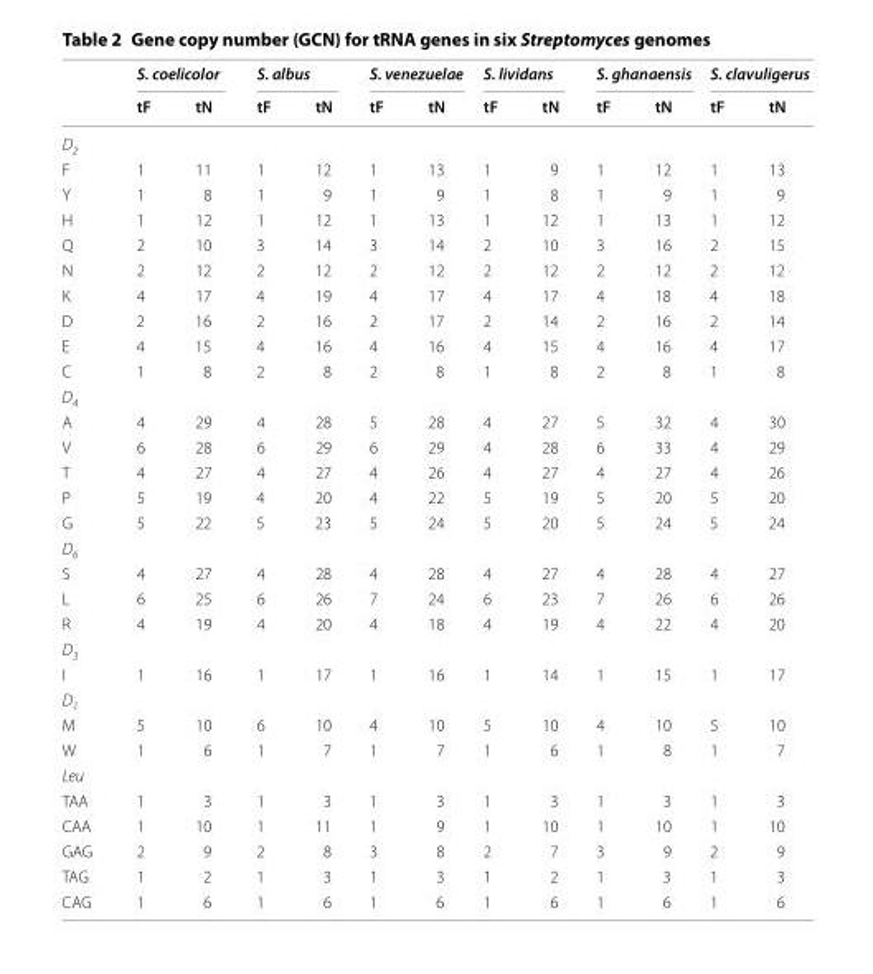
<table><thead><tr><td rowspan="2"></td><td colspan="2">S. coelicolor</td><td colspan="2">S. albus</td><td colspan="2">S. venezuelae</td><td colspan="2">S. lividans</td><td colspan="2">S. ghanaensis</td><td colspan="2">S. clavuligerus</td></tr><tr><td>tF</td><td>tN</td><td>tF</td><td>tN</td><td>tF</td><td>tN</td><td>tF</td><td>tN</td><td>tF</td><td>tN</td><td>tF</td><td>tN</td></tr></thead><tbody><tr><td colspan="13">D<sub>2</sub></td></tr><tr><td>F</td><td>1</td><td>11</td><td>1</td><td>12</td><td>1</td><td>13</td><td>1</td><td>9</td><td>1</td><td>12</td><td>1</td><td>13</td></tr><tr><td>Y</td><td>1</td><td>8</td><td>1</td><td>9</td><td>1</td><td>9</td><td>1</td><td>8</td><td>1</td><td>9</td><td>1</td><td>9</td></tr><tr><td>H</td><td>1</td><td>12</td><td>1</td><td>12</td><td>1</td><td>13</td><td>1</td><td>12</td><td>1</td><td>13</td><td>1</td><td>12</td></tr><tr><td>Q</td><td>2</td><td>10</td><td>3</td><td>14</td><td>3</td><td>14</td><td>2</td><td>10</td><td>3</td><td>16</td><td>2</td><td>15</td></tr><tr><td>N</td><td>2</td><td>12</td><td>2</td><td>12</td><td>2</td><td>12</td><td>2</td><td>12</td><td>2</td><td>12</td><td>2</td><td>12</td></tr><tr><td>K</td><td>4</td><td>17</td><td>4</td><td>19</td><td>4</td><td>17</td><td>4</td><td>17</td><td>4</td><td>18</td><td>4</td><td>18</td></tr><tr><td>D</td><td>2</td><td>16</td><td>2</td><td>16</td><td>2</td><td>17</td><td>2</td><td>14</td><td>2</td><td>16</td><td>2</td><td>14</td></tr><tr><td>E</td><td>4</td><td>15</td><td>4</td><td>16</td><td>4</td><td>16</td><td>4</td><td>15</td><td>4</td><td>16</td><td>4</td><td>17</td></tr><tr><td>C</td><td>1</td><td>8</td><td>2</td><td>8</td><td>2</td><td>8</td><td>1</td><td>8</td><td>2</td><td>8</td><td>1</td><td>8</td></tr><tr><td colspan="13">D<sub>4</sub></td></tr><tr><td>A</td><td>4</td><td>29</td><td>4</td><td>28</td><td>5</td><td>28</td><td>4</td><td>27</td><td>5</td><td>32</td><td>4</td><td>30</td></tr><tr><td>V</td><td>6</td><td>28</td><td>6</td><td>29</td><td>6</td><td>29</td><td>4</td><td>28</td><td>6</td><td>33</td><td>4</td><td>29</td></tr><tr><td>T</td><td>4</td><td>27</td><td>4</td><td>27</td><td>4</td><td>26</td><td>4</td><td>27</td><td>4</td><td>27</td><td>4</td><td>26</td></tr><tr><td>P</td><td>5</td><td>19</td><td>4</td><td>20</td><td>4</td><td>22</td><td>5</td><td>19</td><td>5</td><td>20</td><td>5</td><td>20</td></tr><tr><td>G</td><td>5</td><td>22</td><td>5</td><td>23</td><td>5</td><td>24</td><td>5</td><td>20</td><td>5</td><td>24</td><td>5</td><td>24</td></tr><tr><td colspan="13">D<sub>6</sub></td></tr><tr><td>S</td><td>4</td><td>27</td><td>4</td><td>28</td><td>4</td><td>28</td><td>4</td><td>27</td><td>4</td><td>28</td><td>4</td><td>27</td></tr><tr><td>L</td><td>6</td><td>25</td><td>6</td><td>26</td><td>7</td><td>24</td><td>6</td><td>23</td><td>7</td><td>26</td><td>6</td><td>26</td></tr><tr><td>R</td><td>4</td><td>19</td><td>4</td><td>20</td><td>4</td><td>18</td><td>4</td><td>19</td><td>4</td><td>22</td><td>4</td><td>20</td></tr><tr><td colspan="13">D<sub>3</sub></td></tr><tr><td>I</td><td>1</td><td>16</td><td>1</td><td>17</td><td>1</td><td>16</td><td>1</td><td>14</td><td>1</td><td>15</td><td>1</td><td>17</td></tr><tr><td colspan="13">D<sub>1</sub></td></tr><tr><td>M</td><td>5</td><td>10</td><td>6</td><td>10</td><td>4</td><td>10</td><td>5</td><td>10</td><td>4</td><td>10</td><td>5</td><td>10</td></tr><tr><td>W</td><td>1</td><td>6</td><td>1</td><td>7</td><td>1</td><td>7</td><td>1</td><td>6</td><td>1</td><td>8</td><td>1</td><td>7</td></tr><tr><td colspan="13">Leu</td></tr><tr><td>TAA</td><td>1</td><td>3</td><td>1</td><td>3</td><td>1</td><td>3</td><td>1</td><td>3</td><td>1</td><td>3</td><td>1</td><td>3</td></tr><tr><td>CAA</td><td>1</td><td>10</td><td>1</td><td>11</td><td>1</td><td>9</td><td>1</td><td>10</td><td>1</td><td>10</td><td>1</td><td>10</td></tr><tr><td>GAG</td><td>2</td><td>9</td><td>2</td><td>8</td><td>3</td><td>8</td><td>2</td><td>7</td><td>3</td><td>9</td><td>2</td><td>9</td></tr><tr><td>TAG</td><td>1</td><td>2</td><td>1</td><td>3</td><td>1</td><td>3</td><td>1</td><td>2</td><td>1</td><td>3</td><td>1</td><td>3</td></tr><tr><td>CAG</td><td>1</td><td>6</td><td>1</td><td>6</td><td>1</td><td>6</td><td>1</td><td>6</td><td>1</td><td>6</td><td>1</td><td>6</td></tr></tbody></table>